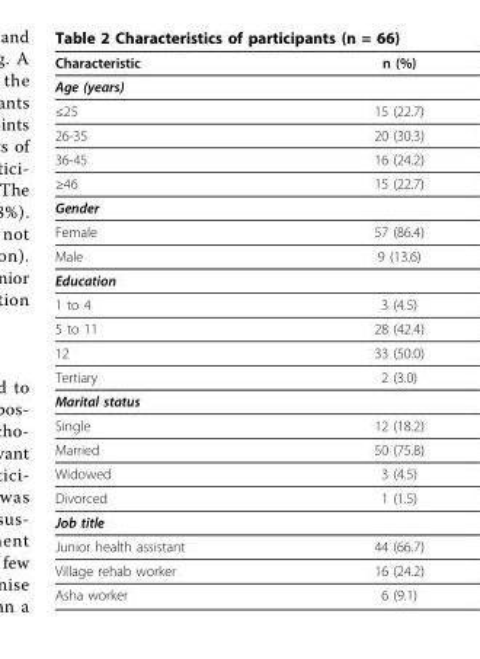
<table><thead><tr><td>Characteristic</td><td>n (%)</td></tr></thead><tbody><tr><td colspan="2">Age (years)</td></tr><tr><td>≤25</td><td>15 (22.7)</td></tr><tr><td>26-35</td><td>20 (30.3)</td></tr><tr><td>36-45</td><td>16 (24.2)</td></tr><tr><td>≥46</td><td>15 (22.7)</td></tr><tr><td colspan="2">Gender</td></tr><tr><td>Female</td><td>57 (86.4)</td></tr><tr><td>Male</td><td>9 (13.6)</td></tr><tr><td colspan="2">Education</td></tr><tr><td>1 to 4</td><td>3 (4.5)</td></tr><tr><td>5 to 11</td><td>28 (42.4)</td></tr><tr><td>12</td><td>33 (50.0)</td></tr><tr><td>Tertiary</td><td>2 (3.0)</td></tr><tr><td colspan="2">Marital status</td></tr><tr><td>Single</td><td>12 (18.2)</td></tr><tr><td>Married</td><td>50 (75.8)</td></tr><tr><td>Widowed</td><td>3 (4.5)</td></tr><tr><td>Divorced</td><td>1 (1.5)</td></tr><tr><td colspan="2">Job title</td></tr><tr><td>Junior health assistant</td><td>44 (66.7)</td></tr><tr><td>Village rehab worker</td><td>16 (24.2)</td></tr><tr><td>Asha worker</td><td>6 (9.1)</td></tr></tbody></table>